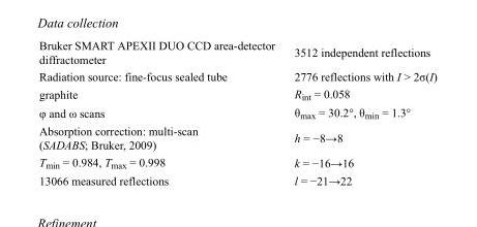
<table><tbody><tr><td>Bruker SMART APEXII DUO CCD area-detector diffractometer</td><td>3512 independent reflections</td></tr><tr><td>Radiation source: fine-focus sealed tube</td><td>2776 reflections with I &gt; 2σ(I)</td></tr><tr><td>graphite</td><td>R<sub>int</sub> = 0.058</td></tr><tr><td>φ and ω scans</td><td>θ<sub>max</sub> = 30.2°, θ<sub>min</sub> = 1.3°</td></tr><tr><td>Absorption correction: multi-scan (SADABS; Bruker, 2009)</td><td>h = −8→8</td></tr><tr><td>T<sub>min</sub> = 0.984, T<sub>max</sub> = 0.998</td><td>k = −16→16</td></tr><tr><td>13066 measured reflections</td><td>l = −21→22</td></tr></tbody></table>